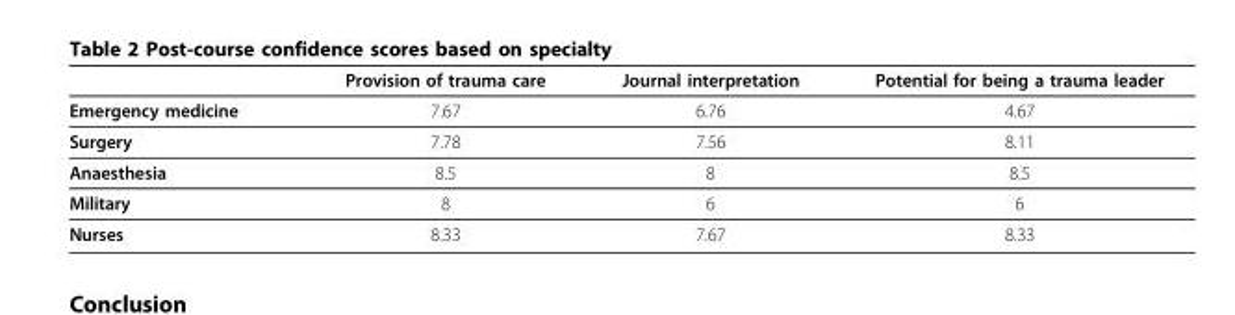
<table><thead><tr><td></td><td>Provision of trauma care</td><td>Journal interpretation</td><td>Potential for being a trauma leader</td></tr></thead><tbody><tr><td>Emergency medicine</td><td>7.67</td><td>6.76</td><td>4.67</td></tr><tr><td>Surgery</td><td>7.78</td><td>7.56</td><td>8.11</td></tr><tr><td>Anaesthesia</td><td>8.5</td><td>8</td><td>8.5</td></tr><tr><td>Military</td><td>8</td><td>6</td><td>6</td></tr><tr><td>Nurses</td><td>8.33</td><td>7.67</td><td>8.33</td></tr></tbody></table>